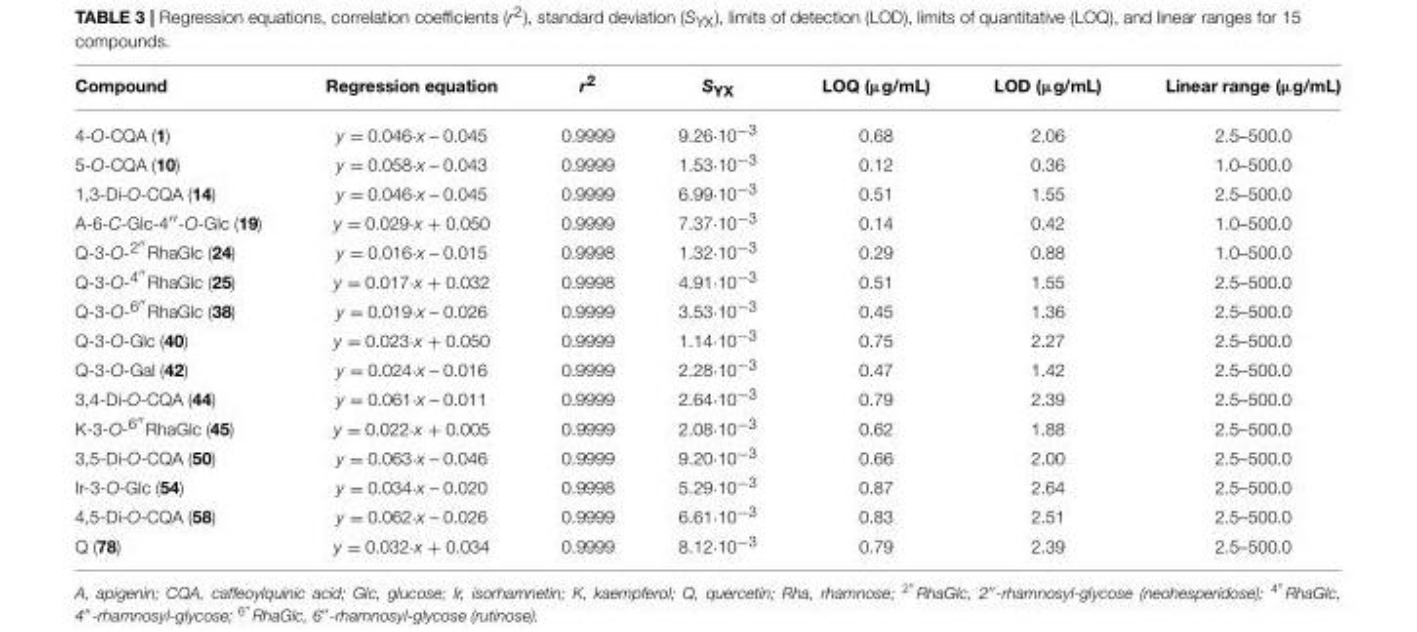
<table><thead><tr><td>Compound</td><td>Regression equation</td><td>r<sup>2</sup></td><td>S<sub>YX</sub></td><td>LOQ (µg/mL)</td><td>LOD (µg/mL)</td><td>Linear range (µg/mL)</td></tr></thead><tbody><tr><td>4-O-CQA (1)</td><td>y = 0.046·x – 0.045</td><td>0.9999</td><td>9.26·10<sup>−3</sup></td><td>0.68</td><td>2.06</td><td>2.5–500.0</td></tr><tr><td>5-O-CQA (10)</td><td>y = 0.058·x – 0.043</td><td>0.9999</td><td>1.53·10<sup>−3</sup></td><td>0.12</td><td>0.36</td><td>1.0–500.0</td></tr><tr><td>1,3-Di-O-CQA (14)</td><td>y = 0.046·x – 0.045</td><td>0.9999</td><td>6.99·10<sup>−3</sup></td><td>0.51</td><td>1.55</td><td>2.5–500.0</td></tr><tr><td>A-6-C-Glc-4′′-O-Glc (19)</td><td>y = 0.029·x + 0.050</td><td>0.9999</td><td>7.37·10<sup>−3</sup></td><td>0.14</td><td>0.42</td><td>1.0–500.0</td></tr><tr><td>Q-3-O-<sup>2</sup>′′RhaGlc (24)</td><td>y = 0.016·x – 0.015</td><td>0.9998</td><td>1.32·10<sup>−3</sup></td><td>0.29</td><td>0.88</td><td>1.0–500.0</td></tr><tr><td>Q-3-O-<sup>4</sup>′′RhaGlc (25)</td><td>y = 0.017·x + 0.032</td><td>0.9998</td><td>4.91·10<sup>−3</sup></td><td>0.51</td><td>1.55</td><td>2.5–500.0</td></tr><tr><td>Q-3-O-<sup>6</sup>′′RhaGlc (38)</td><td>y = 0.019·x – 0.026</td><td>0.9999</td><td>3.53·10<sup>−3</sup></td><td>0.45</td><td>1.36</td><td>2.5–500.0</td></tr><tr><td>Q-3-O-Glc (40)</td><td>y = 0.023·x + 0.050</td><td>0.9999</td><td>1.14·10<sup>−3</sup></td><td>0.75</td><td>2.27</td><td>2.5–500.0</td></tr><tr><td>Q-3-O-Gal (42)</td><td>y = 0.024·x – 0.016</td><td>0.9999</td><td>2.28·10<sup>−3</sup></td><td>0.47</td><td>1.42</td><td>2.5–500.0</td></tr><tr><td>3,4-Di-O-CQA (44)</td><td>y = 0.061·x – 0.011</td><td>0.9999</td><td>2.64·10<sup>−3</sup></td><td>0.79</td><td>2.39</td><td>2.5–500.0</td></tr><tr><td>K-3-O-<sup>6</sup>′′RhaGlc (45)</td><td>y = 0.022·x + 0.005</td><td>0.9999</td><td>2.08·10<sup>−3</sup></td><td>0.62</td><td>1.88</td><td>2.5–500.0</td></tr><tr><td>3,5-Di-O-CQA (50)</td><td>y = 0.063·x – 0.046</td><td>0.9999</td><td>9.20·10<sup>−3</sup></td><td>0.66</td><td>2.00</td><td>2.5–500.0</td></tr><tr><td>Ir-3-O-Glc (54)</td><td>y = 0.034·x – 0.020</td><td>0.9998</td><td>5.29·10<sup>−3</sup></td><td>0.87</td><td>2.64</td><td>2.5–500.0</td></tr><tr><td>4,5-Di-O-CQA (58)</td><td>y = 0.062·x – 0.026</td><td>0.9999</td><td>6.61·10<sup>−3</sup></td><td>0.83</td><td>2.51</td><td>2.5–500.0</td></tr><tr><td>Q (78)</td><td>y = 0.032·x + 0.034</td><td>0.9999</td><td>8.12·10<sup>−3</sup></td><td>0.79</td><td>2.39</td><td>2.5–500.0</td></tr></tbody></table>